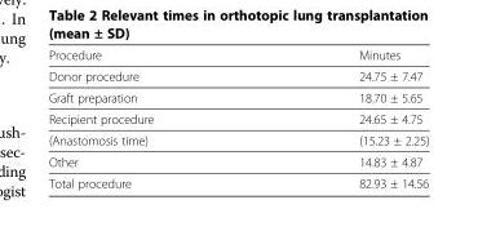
<table><thead><tr><td>Procedure</td><td>Minutes</td></tr></thead><tbody><tr><td>Donor procedure</td><td>24.75 ± 7.47</td></tr><tr><td>Graft preparation</td><td>18.70 ± 5.65</td></tr><tr><td>Recipient procedure</td><td>24.65 ± 4.75</td></tr><tr><td>(Anastomosis time)</td><td>(15.23 ± 2.25)</td></tr><tr><td>Other</td><td>14.83 ± 4.87</td></tr><tr><td>Total procedure</td><td>82.93 ± 14.56</td></tr></tbody></table>